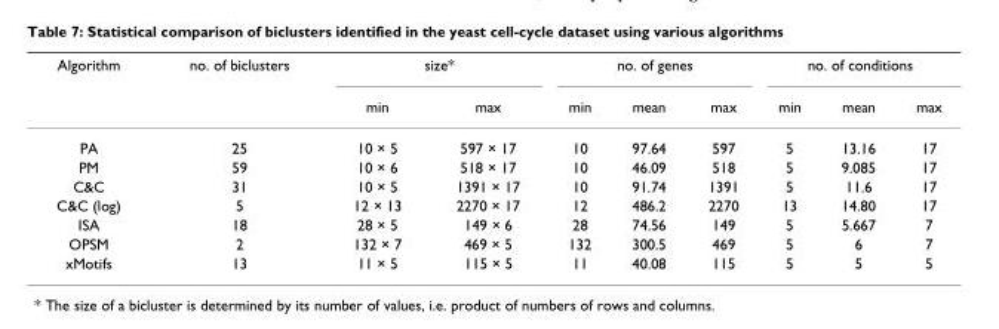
<table><thead><tr><td rowspan="2">Algorithm</td><td rowspan="2">no. of biclusters</td><td colspan="2">size*</td><td colspan="3">no. of genes</td><td colspan="3">no. of conditions</td></tr><tr><td>min</td><td>max</td><td>min</td><td>mean</td><td>max</td><td>min</td><td>mean</td><td>max</td></tr></thead><tbody><tr><td>PA</td><td>25</td><td>10 × 5</td><td>597 × 17</td><td>10</td><td>97.64</td><td>597</td><td>5</td><td>13.16</td><td>17</td></tr><tr><td>PM</td><td>59</td><td>10 × 6</td><td>518 × 17</td><td>10</td><td>46.09</td><td>518</td><td>5</td><td>9.085</td><td>17</td></tr><tr><td>C&amp;C</td><td>31</td><td>10 × 5</td><td>1391 × 17</td><td>10</td><td>91.74</td><td>1391</td><td>5</td><td>11.6</td><td>17</td></tr><tr><td>C&amp;C (log)</td><td>5</td><td>12 × 13</td><td>2270 × 17</td><td>12</td><td>486.2</td><td>2270</td><td>13</td><td>14.80</td><td>17</td></tr><tr><td>ISA</td><td>18</td><td>28 × 5</td><td>149 × 6</td><td>28</td><td>74.56</td><td>149</td><td>5</td><td>5.667</td><td>7</td></tr><tr><td>OPSM</td><td>2</td><td>132 × 7</td><td>469 × 5</td><td>132</td><td>300.5</td><td>469</td><td>5</td><td>6</td><td>7</td></tr><tr><td>xMotifs</td><td>13</td><td>11 × 5</td><td>115 × 5</td><td>11</td><td>40.08</td><td>115</td><td>5</td><td>5</td><td>5</td></tr></tbody></table>